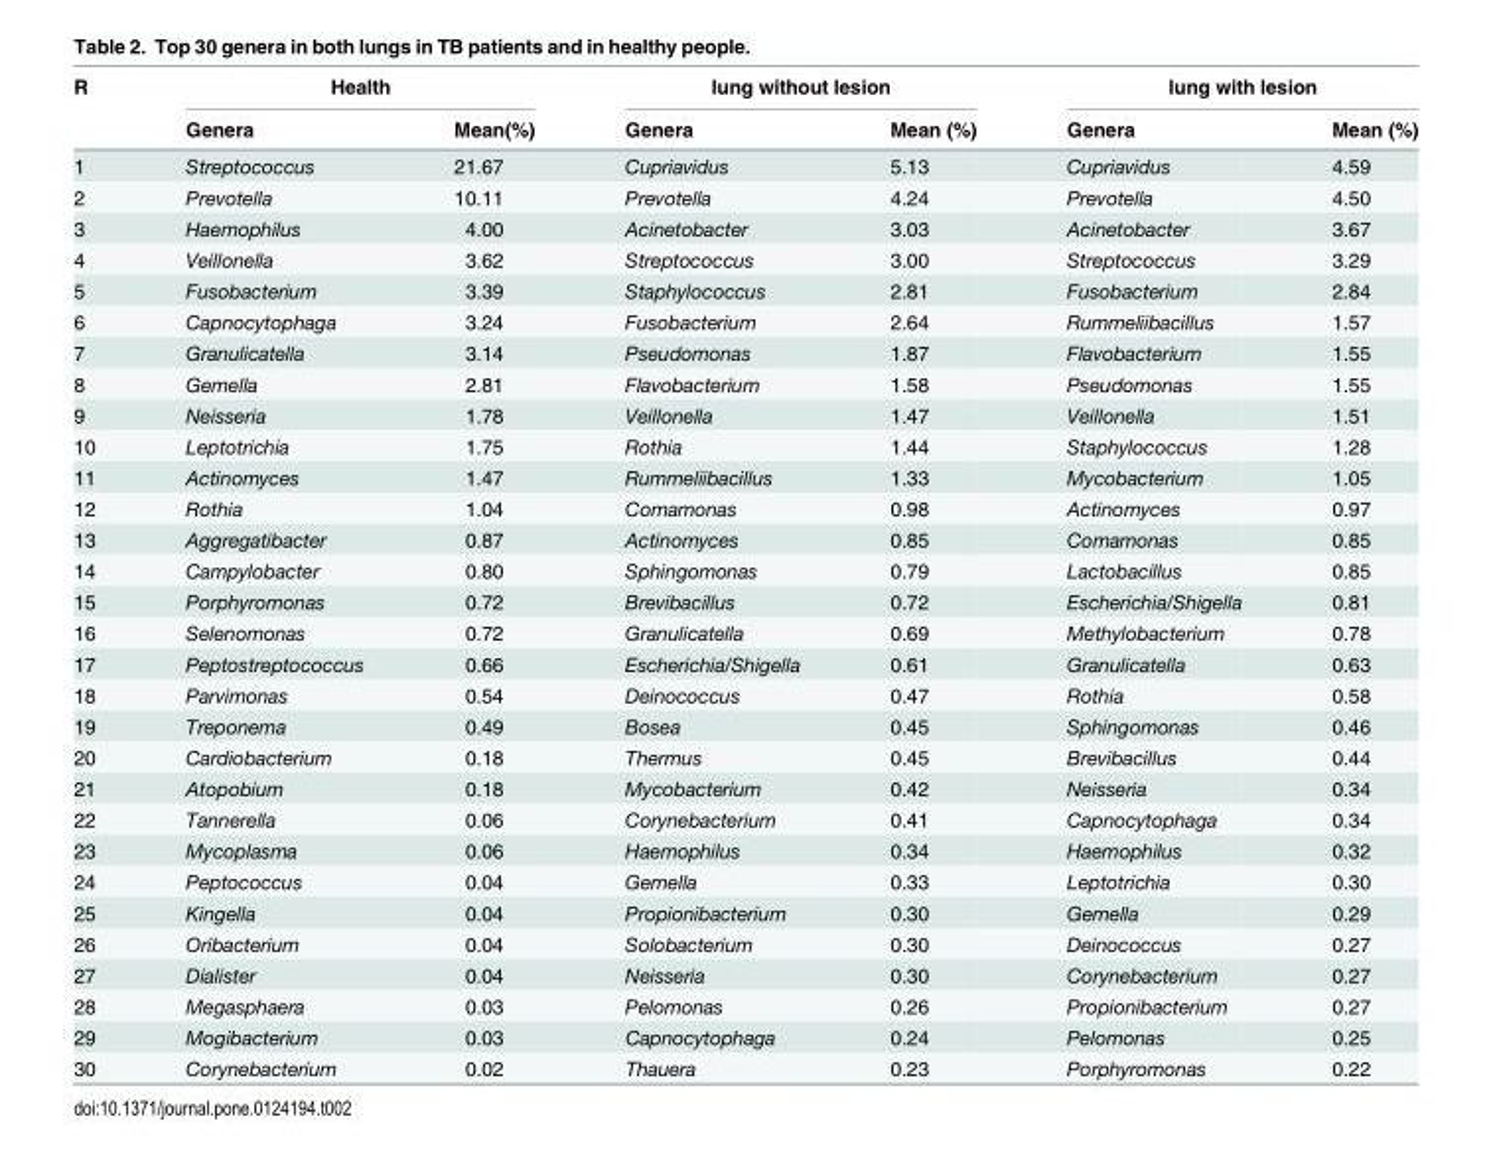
<table><thead><tr><td rowspan="2">R</td><td colspan="2">Health</td><td colspan="2">lung without lesion</td><td colspan="2">lung with lesion</td></tr><tr><td>Genera</td><td>Mean(%)</td><td>Genera</td><td>Mean (%)</td><td>Genera</td><td>Mean (%)</td></tr></thead><tbody><tr><td>1</td><td>Streptococcus</td><td>21.67</td><td>Cupriavidus</td><td>5.13</td><td>Cupriavidus</td><td>4.59</td></tr><tr><td>2</td><td>Prevotella</td><td>10.11</td><td>Prevotella</td><td>4.24</td><td>Prevotella</td><td>4.50</td></tr><tr><td>3</td><td>Haemophilus</td><td>4.00</td><td>Acinetobacter</td><td>3.03</td><td>Acinetobacter</td><td>3.67</td></tr><tr><td>4</td><td>Veillonella</td><td>3.62</td><td>Streptococcus</td><td>3.00</td><td>Streptococcus</td><td>3.29</td></tr><tr><td>5</td><td>Fusobacterium</td><td>3.39</td><td>Staphylococcus</td><td>2.81</td><td>Fusobacterium</td><td>2.84</td></tr><tr><td>6</td><td>Capnocytophaga</td><td>3.24</td><td>Fusobacterium</td><td>2.64</td><td>Rummeliibacillus</td><td>1.57</td></tr><tr><td>7</td><td>Granulicatella</td><td>3.14</td><td>Pseudomonas</td><td>1.87</td><td>Flavobacterium</td><td>1.55</td></tr><tr><td>8</td><td>Gemella</td><td>2.81</td><td>Flavobacterium</td><td>1.58</td><td>Pseudomonas</td><td>1.55</td></tr><tr><td>9</td><td>Neisseria</td><td>1.78</td><td>Veillonella</td><td>1.47</td><td>Veillonella</td><td>1.51</td></tr><tr><td>10</td><td>Leptotrichia</td><td>1.75</td><td>Rothia</td><td>1.44</td><td>Staphylococcus</td><td>1.28</td></tr><tr><td>11</td><td>Actinomyces</td><td>1.47</td><td>Rummeliibacillus</td><td>1.33</td><td>Mycobacterium</td><td>1.05</td></tr><tr><td>12</td><td>Rothia</td><td>1.04</td><td>Comamonas</td><td>0.98</td><td>Actinomyces</td><td>0.97</td></tr><tr><td>13</td><td>Aggregatibacter</td><td>0.87</td><td>Actinomyces</td><td>0.85</td><td>Comamonas</td><td>0.85</td></tr><tr><td>14</td><td>Campylobacter</td><td>0.80</td><td>Sphingomonas</td><td>0.79</td><td>Lactobacillus</td><td>0.85</td></tr><tr><td>15</td><td>Porphyromonas</td><td>0.72</td><td>Brevibacillus</td><td>0.72</td><td>Escherichia/Shigella</td><td>0.81</td></tr><tr><td>16</td><td>Selenomonas</td><td>0.72</td><td>Granulicatella</td><td>0.69</td><td>Methylobacterium</td><td>0.78</td></tr><tr><td>17</td><td>Peptostreptococcus</td><td>0.66</td><td>Escherichia/Shigella</td><td>0.61</td><td>Granulicatella</td><td>0.63</td></tr><tr><td>18</td><td>Parvimonas</td><td>0.54</td><td>Deinococcus</td><td>0.47</td><td>Rothia</td><td>0.58</td></tr><tr><td>19</td><td>Treponema</td><td>0.49</td><td>Bosea</td><td>0.45</td><td>Sphingomonas</td><td>0.46</td></tr><tr><td>20</td><td>Cardiobacterium</td><td>0.18</td><td>Thermus</td><td>0.45</td><td>Brevibacillus</td><td>0.44</td></tr><tr><td>21</td><td>Atopobium</td><td>0.18</td><td>Mycobacterium</td><td>0.42</td><td>Neisseria</td><td>0.34</td></tr><tr><td>22</td><td>Tannerella</td><td>0.06</td><td>Corynebacterium</td><td>0.41</td><td>Capnocytophaga</td><td>0.34</td></tr><tr><td>23</td><td>Mycoplasma</td><td>0.06</td><td>Haemophilus</td><td>0.34</td><td>Haemophilus</td><td>0.32</td></tr><tr><td>24</td><td>Peptococcus</td><td>0.04</td><td>Gemella</td><td>0.33</td><td>Leptotrichia</td><td>0.30</td></tr><tr><td>25</td><td>Kingella</td><td>0.04</td><td>Propionibacterium</td><td>0.30</td><td>Gemella</td><td>0.29</td></tr><tr><td>26</td><td>Oribacterium</td><td>0.04</td><td>Solobacterium</td><td>0.30</td><td>Deinococcus</td><td>0.27</td></tr><tr><td>27</td><td>Dialister</td><td>0.04</td><td>Neisseria</td><td>0.30</td><td>Corynebacterium</td><td>0.27</td></tr><tr><td>28</td><td>Megasphaera</td><td>0.03</td><td>Pelomonas</td><td>0.26</td><td>Propionibacterium</td><td>0.27</td></tr><tr><td>29</td><td>Mogibacterium</td><td>0.03</td><td>Capnocytophaga</td><td>0.24</td><td>Pelomonas</td><td>0.25</td></tr><tr><td>30</td><td>Corynebacterium</td><td>0.02</td><td>Thauera</td><td>0.23</td><td>Porphyromonas</td><td>0.22</td></tr></tbody></table>